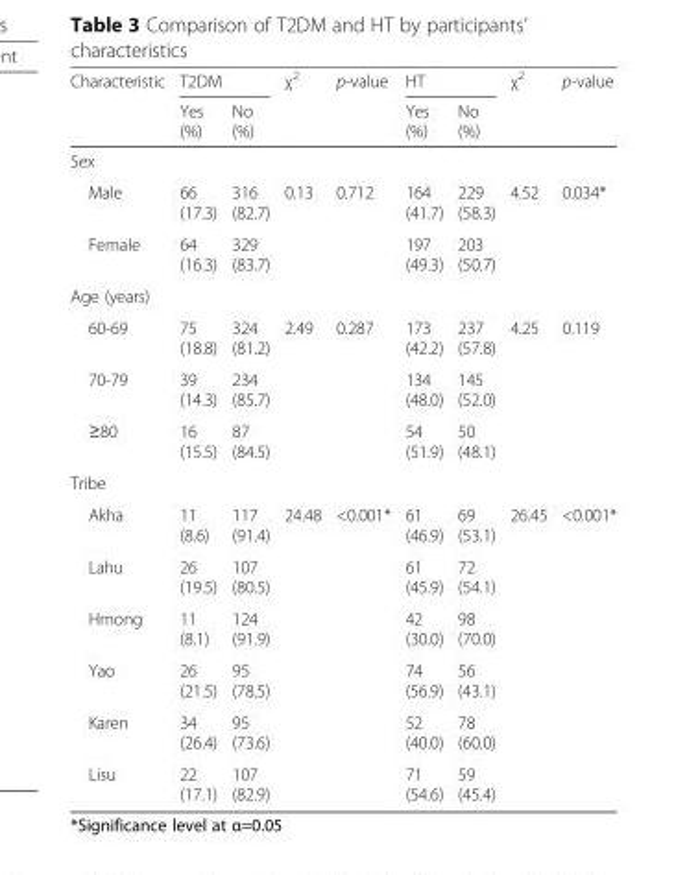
<table><thead><tr><td rowspan="2">Characteristic</td><td colspan="2">T2DM</td><td rowspan="2">χ<sup>2</sup></td><td rowspan="2">p-value</td><td colspan="2">HT</td><td rowspan="2">χ<sup>2</sup></td><td rowspan="2">p-value</td></tr><tr><td>Yes (%)</td><td>No (%)</td><td>Yes (%)</td><td>No (%)</td></tr></thead><tbody><tr><td colspan="9">Sex</td></tr><tr><td>Male</td><td>66 (17.3)</td><td>316 (82.7)</td><td>0.13</td><td>0.712</td><td>164 (41.7)</td><td>229 (58.3)</td><td>4.52</td><td>0.034*</td></tr><tr><td>Female</td><td>64 (16.3)</td><td>329 (83.7)</td><td></td><td></td><td>197 (49.3)</td><td>203 (50.7)</td><td></td><td></td></tr><tr><td colspan="9">Age (years)</td></tr><tr><td>60-69</td><td>75 (18.8)</td><td>324 (81.2)</td><td>2.49</td><td>0.287</td><td>173 (42.2)</td><td>237 (57.8)</td><td>4.25</td><td>0.119</td></tr><tr><td>70-79</td><td>39 (14.3)</td><td>234 (85.7)</td><td></td><td></td><td>134 (48.0)</td><td>145 (52.0)</td><td></td><td></td></tr><tr><td>≥80</td><td>16 (15.5)</td><td>87 (84.5)</td><td></td><td></td><td>54 (51.9)</td><td>50 (48.1)</td><td></td><td></td></tr><tr><td colspan="9">Tribe</td></tr><tr><td>Akha</td><td>11 (8.6)</td><td>117 (91.4)</td><td>24.48</td><td>&lt;0.001*</td><td>61 (46.9)</td><td>69 (53.1)</td><td>26.45</td><td>&lt;0.001*</td></tr><tr><td>Lahu</td><td>26 (19.5)</td><td>107 (80.5)</td><td></td><td></td><td>61 (45.9)</td><td>72 (54.1)</td><td></td><td></td></tr><tr><td>Hmong</td><td>11 (8.1)</td><td>124 (91.9)</td><td></td><td></td><td>42 (30.0)</td><td>98 (70.0)</td><td></td><td></td></tr><tr><td>Yao</td><td>26 (21.5)</td><td>95 (78.5)</td><td></td><td></td><td>74 (56.9)</td><td>56 (43.1)</td><td></td><td></td></tr><tr><td>Karen</td><td>34 (26.4)</td><td>95 (73.6)</td><td></td><td></td><td>52 (40.0)</td><td>78 (60.0)</td><td></td><td></td></tr><tr><td>Lisu</td><td>22 (17.1)</td><td>107 (82.9)</td><td></td><td></td><td>71 (54.6)</td><td>59 (45.4)</td><td></td><td></td></tr></tbody></table>